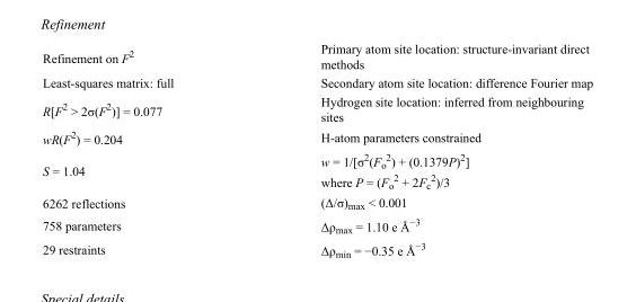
<table><tbody><tr><td>Refinement on F<sup>2</sup></td><td>Primary atom site location: structure-invariant direct methods</td></tr><tr><td>Least-squares matrix: full</td><td>Secondary atom site location: difference Fourier map</td></tr><tr><td>R[F<sup>2</sup> &gt; 2σ(F<sup>2</sup>)] = 0.077</td><td>Hydrogen site location: inferred from neighbouring sites</td></tr><tr><td>wR(F<sup>2</sup>) = 0.204</td><td>H-atom parameters constrained</td></tr><tr><td>S = 1.04</td><td>w = 1/[σ<sup>2</sup>(F<sub>o</sub> <sup>2</sup>) + (0.1379P)<sup>2</sup>] where P = (F<sub>o</sub> <sup>2</sup> + 2F<sub>c</sub> <sup>2</sup>)/3</td></tr><tr><td>6262 reflections</td><td>(Δ/σ)<sub>max</sub> &lt; 0.001</td></tr><tr><td>758 parameters</td><td>Δρ<sub>max</sub> = 1.10 e Å<sup>−3</sup></td></tr><tr><td>29 restraints</td><td>Δρ<sub>min</sub> = −0.35 e Å<sup>−3</sup></td></tr></tbody></table>